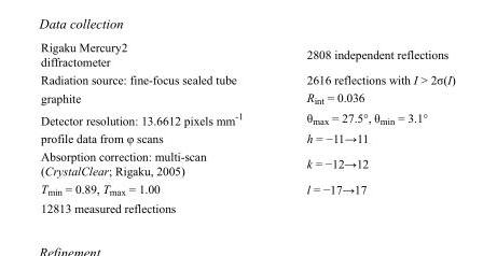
<table><tbody><tr><td>Rigaku Mercury2 diffractometer</td><td>2808 independent reflections</td></tr><tr><td>Radiation source: fine-focus sealed tube</td><td>2616 reflections with I &gt; 2σ(I)</td></tr><tr><td>graphite</td><td>R<sub>int</sub> = 0.036</td></tr><tr><td>Detector resolution: 13.6612 pixels mm<sup>-1</sup></td><td>θ<sub>max</sub> = 27.5°, θ<sub>min</sub> = 3.1°</td></tr><tr><td>profile data from φ scans</td><td>h = −11→11</td></tr><tr><td>Absorption correction: multi-scan (CrystalClear; Rigaku, 2005)</td><td>k = −12→12</td></tr><tr><td>T<sub>min</sub> = 0.89, T<sub>max</sub> = 1.00</td><td>l = −17→17</td></tr><tr><td>12813 measured reflections</td><td></td></tr></tbody></table>